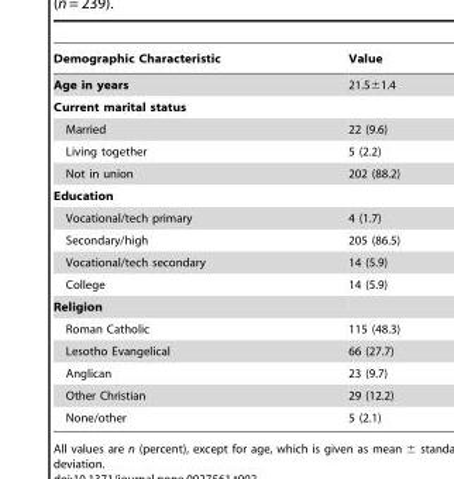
<table><thead><tr><td>Demographic Characteristic</td><td>Value</td></tr></thead><tbody><tr><td>Age in years</td><td>21.5±1.4</td></tr><tr><td colspan="2">Current marital status</td></tr><tr><td>Married</td><td>22 (9.6)</td></tr><tr><td>Living together</td><td>5 (2.2)</td></tr><tr><td>Not in union</td><td>202 (88.2)</td></tr><tr><td colspan="2">Education</td></tr><tr><td>Vocational/tech primary</td><td>4 (1.7)</td></tr><tr><td>Secondary/high</td><td>205 (86.5)</td></tr><tr><td>Vocational/tech secondary</td><td>14 (5.9)</td></tr><tr><td>College</td><td>14 (5.9)</td></tr><tr><td colspan="2">Religion</td></tr><tr><td>Roman Catholic</td><td>115 (48.3)</td></tr><tr><td>Lesotho Evangelical</td><td>66 (27.7)</td></tr><tr><td>Anglican</td><td>23 (9.7)</td></tr><tr><td>Other Christian</td><td>29 (12.2)</td></tr><tr><td>None/other</td><td>5 (2.1)</td></tr></tbody></table>